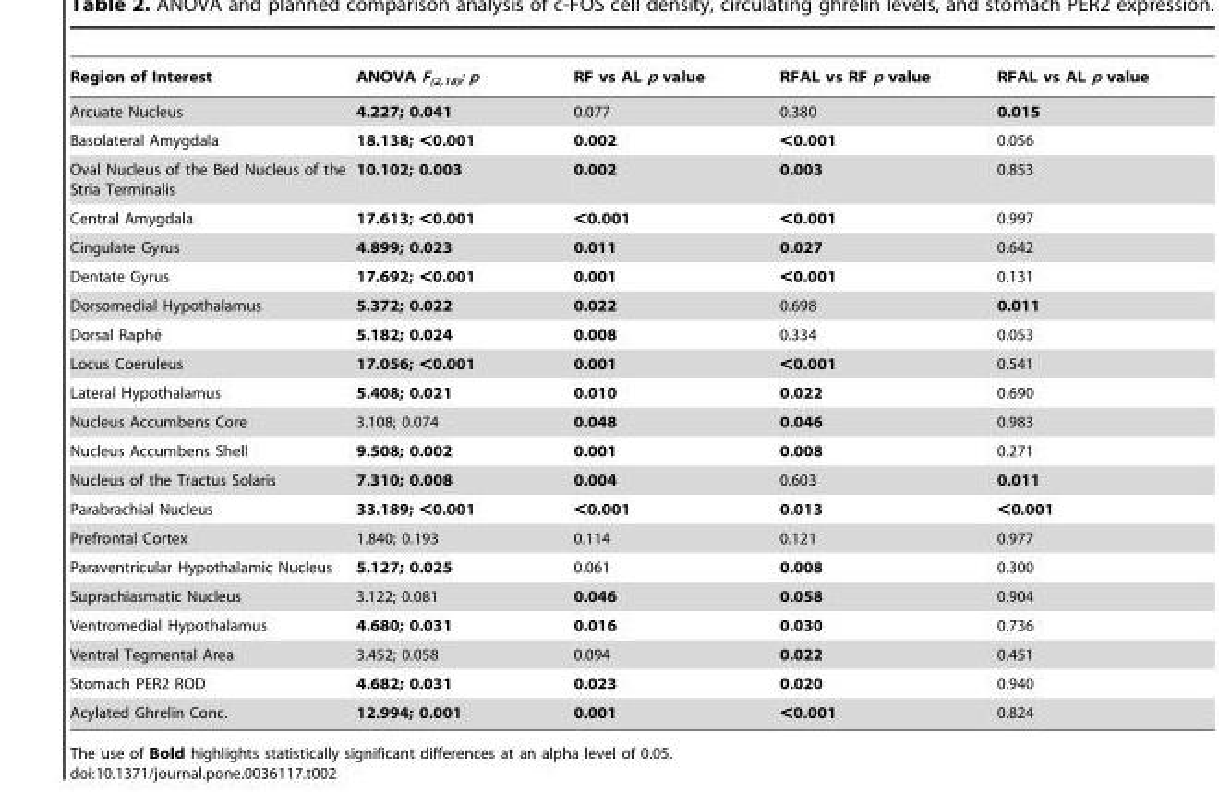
<table><thead><tr><td>Region of Interest</td><td>ANOVA F<sub>(2,18)</sub>; p</td><td>RF vs AL p value</td><td>RFAL vs RF p value</td><td>RFAL vs AL p value</td></tr></thead><tbody><tr><td>Arcuate Nucleus</td><td>4.227; 0.041</td><td>0.077</td><td>0.380</td><td>0.015</td></tr><tr><td>Basolateral Amygdala</td><td>18.138; &lt;0.001</td><td>0.002</td><td>&lt;0.001</td><td>0.056</td></tr><tr><td>Oval Nucleus of the Bed Nucleus of the Stria Terminalis</td><td>10.102; 0.003</td><td>0.002</td><td>0.003</td><td>0.853</td></tr><tr><td>Central Amygdala</td><td>17.613; &lt;0.001</td><td>&lt;0.001</td><td>&lt;0.001</td><td>0.997</td></tr><tr><td>Cingulate Gyrus</td><td>4.899; 0.023</td><td>0.011</td><td>0.027</td><td>0.642</td></tr><tr><td>Dentate Gyrus</td><td>17.692; &lt;0.001</td><td>0.001</td><td>&lt;0.001</td><td>0.131</td></tr><tr><td>Dorsomedial Hypothalamus</td><td>5.372; 0.022</td><td>0.022</td><td>0.698</td><td>0.011</td></tr><tr><td>Dorsal Raphe´</td><td>5.182; 0.024</td><td>0.008</td><td>0.334</td><td>0.053</td></tr><tr><td>Locus Coeruleus</td><td>17.056; &lt;0.001</td><td>0.001</td><td>&lt;0.001</td><td>0.541</td></tr><tr><td>Lateral Hypothalamus</td><td>5.408; 0.021</td><td>0.010</td><td>0.022</td><td>0.690</td></tr><tr><td>Nucleus Accumbens Core</td><td>3.108; 0.074</td><td>0.048</td><td>0.046</td><td>0.983</td></tr><tr><td>Nucleus Accumbens Shell</td><td>9.508; 0.002</td><td>0.001</td><td>0.008</td><td>0.271</td></tr><tr><td>Nucleus of the Tractus Solaris</td><td>7.310; 0.008</td><td>0.004</td><td>0.603</td><td>0.011</td></tr><tr><td>Parabrachial Nucleus</td><td>33.189; &lt;0.001</td><td>&lt;0.001</td><td>0.013</td><td>&lt;0.001</td></tr><tr><td>Prefrontal Cortex</td><td>1.840; 0.193</td><td>0.114</td><td>0.121</td><td>0.977</td></tr><tr><td>Paraventricular Hypothalamic Nucleus</td><td>5.127; 0.025</td><td>0.061</td><td>0.008</td><td>0.300</td></tr><tr><td>Suprachiasmatic Nucleus</td><td>3.122; 0.081</td><td>0.046</td><td>0.058</td><td>0.904</td></tr><tr><td>Ventromedial Hypothalamus</td><td>4.680; 0.031</td><td>0.016</td><td>0.030</td><td>0.736</td></tr><tr><td>Ventral Tegmental Area</td><td>3.452; 0.058</td><td>0.094</td><td>0.022</td><td>0.451</td></tr><tr><td>Stomach PER2 ROD</td><td>4.682; 0.031</td><td>0.023</td><td>0.020</td><td>0.940</td></tr><tr><td>Acylated Ghrelin Conc.</td><td>12.994; 0.001</td><td>0.001</td><td>&lt;0.001</td><td>0.824</td></tr></tbody></table>